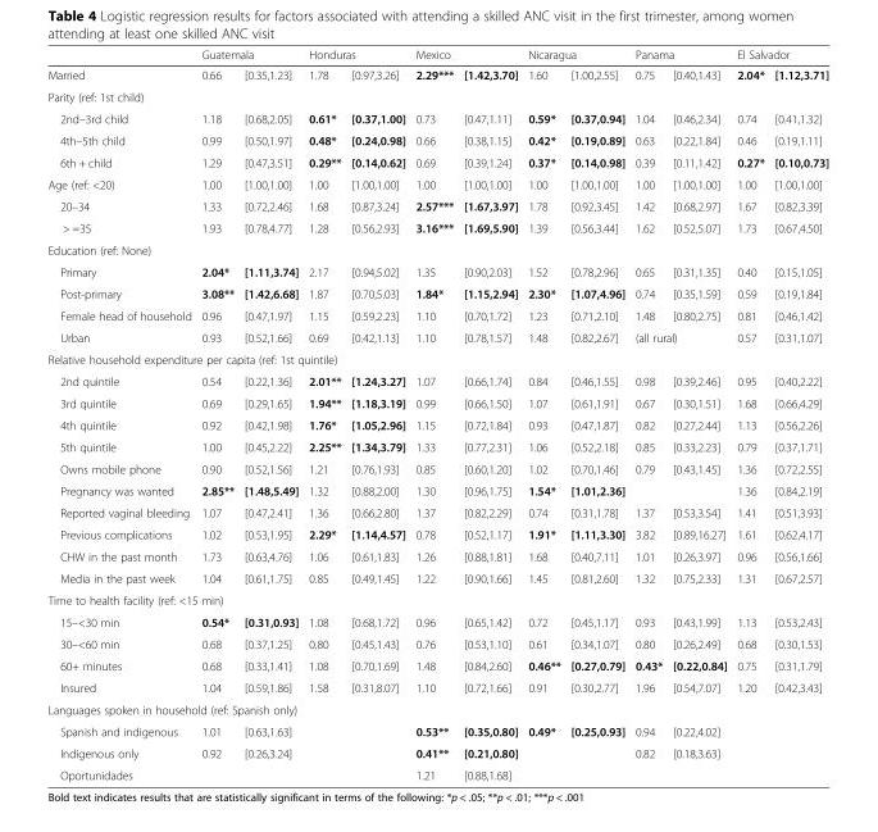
<table><thead><tr><td rowspan="2">Married</td><td colspan="2">Guatemala</td><td colspan="2">Honduras</td><td colspan="2">Mexico</td><td colspan="2">Nicaragua</td><td colspan="2">Panama</td><td colspan="2">El Salvador</td></tr><tr><td>0.66</td><td>[0.35,1.23]</td><td>1.78</td><td>[0.97,3.26]</td><td>2.29***</td><td>[1.42,3.70]</td><td>1.60</td><td>[1.00,2.55]</td><td>0.75</td><td>[0.40,1.43]</td><td>2.04*</td><td>[1.12,3.71]</td></tr></thead><tbody><tr><td colspan="13">Parity (ref: 1st child)</td></tr><tr><td>2nd–3rd child</td><td>1.18</td><td>[0.68,2.05]</td><td>0.61*</td><td>[0.37,1.00]</td><td>0.73</td><td>[0.47,1.11]</td><td>0.59*</td><td>[0.37,0.94]</td><td>1.04</td><td>[0.46,2.34]</td><td>0.74</td><td>[0.41,1.32]</td></tr><tr><td>4th–5th child</td><td>0.99</td><td>[0.50,1.97]</td><td>0.48*</td><td>[0.24,0.98]</td><td>0.66</td><td>[0.38,1.15]</td><td>0.42*</td><td>[0.19,0.89]</td><td>0.63</td><td>[0.22,1.84]</td><td>0.46</td><td>[0.19,1.11]</td></tr><tr><td>6th + child</td><td>1.29</td><td>[0.47,3.51]</td><td>0.29**</td><td>[0.14,0.62]</td><td>0.69</td><td>[0.39,1.24]</td><td>0.37*</td><td>[0.14,0.98]</td><td>0.39</td><td>[0.11,1.42]</td><td>0.27*</td><td>[0.10,0.73]</td></tr><tr><td>Age (ref: &lt;20)</td><td>1.00</td><td>[1.00,1.00]</td><td>1.00</td><td>[1.00,1.00]</td><td>1.00</td><td>[1.00,1.00]</td><td>1.00</td><td>[1.00,1.00]</td><td>1.00</td><td>[1.00,1.00]</td><td>1.00</td><td>[1.00,1.00]</td></tr><tr><td>20–34</td><td>1.33</td><td>[0.72,2.46]</td><td>1.68</td><td>[0.87,3.24]</td><td>2.57***</td><td>[1.67,3.97]</td><td>1.78</td><td>[0.92,3.45]</td><td>1.42</td><td>[0.68,2.97]</td><td>1.67</td><td>[0.82,3.39]</td></tr><tr><td>&gt; =35</td><td>1.93</td><td>[0.78,4.77]</td><td>1.28</td><td>[0.56,2.93]</td><td>3.16***</td><td>[1.69,5.90]</td><td>1.39</td><td>[0.56,3.44]</td><td>1.62</td><td>[0.52,5.07]</td><td>1.73</td><td>[0.67,4.50]</td></tr><tr><td colspan="13">Education (ref: None)</td></tr><tr><td>Primary</td><td>2.04*</td><td>[1.11,3.74]</td><td>2.17</td><td>[0.94,5.02]</td><td>1.35</td><td>[0.90,2.03]</td><td>1.52</td><td>[0.78,2.96]</td><td>0.65</td><td>[0.31,1.35]</td><td>0.40</td><td>[0.15,1.05]</td></tr><tr><td>Post-primary</td><td>3.08**</td><td>[1.42,6.68]</td><td>1.87</td><td>[0.70,5.03]</td><td>1.84*</td><td>[1.15,2.94]</td><td>2.30*</td><td>[1.07,4.96]</td><td>0.74</td><td>[0.35,1.59]</td><td>0.59</td><td>[0.19,1.84]</td></tr><tr><td>Female head of household</td><td>0.96</td><td>[0.47,1.97]</td><td>1.15</td><td>[0.59,2.23]</td><td>1.10</td><td>[0.70,1.72]</td><td>1.23</td><td>[0.71,2.10]</td><td>1.48</td><td>[0.80,2.75]</td><td>0.81</td><td>[0.46,1.42]</td></tr><tr><td>Urban</td><td>0.93</td><td>[0.52,1.66]</td><td>0.69</td><td>[0.42,1.13]</td><td>1.10</td><td>[0.78,1.57]</td><td>1.48</td><td>[0.82,2.67]</td><td colspan="2">(all rural)</td><td>0.57</td><td>[0.31,1.07]</td></tr><tr><td colspan="13">Relative household expenditure per capita (ref: 1st quintile)</td></tr><tr><td>2nd quintile</td><td>0.54</td><td>[0.22,1.36]</td><td>2.01**</td><td>[1.24,3.27]</td><td>1.07</td><td>[0.66,1.74]</td><td>0.84</td><td>[0.46,1.55]</td><td>0.98</td><td>[0.39,2.46]</td><td>0.95</td><td>[0.40,2.22]</td></tr><tr><td>3rd quintile</td><td>0.69</td><td>[0.29,1.65]</td><td>1.94**</td><td>[1.18,3.19]</td><td>0.99</td><td>[0.66,1.50]</td><td>1.07</td><td>[0.61,1.91]</td><td>0.67</td><td>[0.30,1.51]</td><td>1.68</td><td>[0.66,4.29]</td></tr><tr><td>4th quintile</td><td>0.92</td><td>[0.42,1.98]</td><td>1.76*</td><td>[1.05,2.96]</td><td>1.15</td><td>[0.72,1.84]</td><td>0.93</td><td>[0.47,1.87]</td><td>0.82</td><td>[0.27,2.44]</td><td>1.13</td><td>[0.56,2.26]</td></tr><tr><td>5th quintile</td><td>1.00</td><td>[0.45,2.22]</td><td>2.25**</td><td>[1.34,3.79]</td><td>1.33</td><td>[0.77,2.31]</td><td>1.06</td><td>[0.52,2.18]</td><td>0.85</td><td>[0.33,2.23]</td><td>0.79</td><td>[0.37,1.71]</td></tr><tr><td>Owns mobile phone</td><td>0.90</td><td>[0.52,1.56]</td><td>1.21</td><td>[0.76,1.93]</td><td>0.85</td><td>[0.60,1.20]</td><td>1.02</td><td>[0.70,1.46]</td><td>0.79</td><td>[0.43,1.45]</td><td>1.36</td><td>[0.72,2.55]</td></tr><tr><td>Pregnancy was wanted</td><td>2.85**</td><td>[1.48,5.49]</td><td>1.32</td><td>[0.88,2.00]</td><td>1.30</td><td>[0.96,1.75]</td><td>1.54*</td><td>[1.01,2.36]</td><td></td><td></td><td>1.36</td><td>[0.84,2.19]</td></tr><tr><td>Reported vaginal bleeding</td><td>1.07</td><td>[0.47,2.41]</td><td>1.36</td><td>[0.66,2.80]</td><td>1.37</td><td>[0.82,2.29]</td><td>0.74</td><td>[0.31,1.78]</td><td>1.37</td><td>[0.53,3.54]</td><td>1.41</td><td>[0.51,3.93]</td></tr><tr><td>Previous complications</td><td>1.02</td><td>[0.53,1.95]</td><td>2.29*</td><td>[1.14,4.57]</td><td>0.78</td><td>[0.52,1.17]</td><td>1.91*</td><td>[1.11,3.30]</td><td>3.82</td><td>[0.89,16.27]</td><td>1.61</td><td>[0.62,4.17]</td></tr><tr><td>CHW in the past month</td><td>1.73</td><td>[0.63,4.76]</td><td>1.06</td><td>[0.61,1.83]</td><td>1.26</td><td>[0.88,1.81]</td><td>1.68</td><td>[0.40,7.11]</td><td>1.01</td><td>[0.26,3.97]</td><td>0.96</td><td>[0.56,1.66]</td></tr><tr><td>Media in the past week</td><td>1.04</td><td>[0.61,1.75]</td><td>0.85</td><td>[0.49,1.45]</td><td>1.22</td><td>[0.90,1.66]</td><td>1.45</td><td>[0.81,2.60]</td><td>1.32</td><td>[0.75,2.33]</td><td>1.31</td><td>[0.67,2.57]</td></tr><tr><td colspan="13">Time to health facility (ref: &lt;15 min)</td></tr><tr><td>15–&lt;30 min</td><td>0.54*</td><td>[0.31,0.93]</td><td>1.08</td><td>[0.68,1.72]</td><td>0.96</td><td>[0.65,1.42]</td><td>0.72</td><td>[0.45,1.17]</td><td>0.93</td><td>[0.43,1.99]</td><td>1.13</td><td>[0.53,2.43]</td></tr><tr><td>30–&lt;60 min</td><td>0.68</td><td>[0.37,1.25]</td><td>0.80</td><td>[0.45,1.43]</td><td>0.76</td><td>[0.53,1.10]</td><td>0.61</td><td>[0.34,1.07]</td><td>0.80</td><td>[0.26,2.49]</td><td>0.68</td><td>[0.30,1.53]</td></tr><tr><td>60+ minutes</td><td>0.68</td><td>[0.33,1.41]</td><td>1.08</td><td>[0.70,1.69]</td><td>1.48</td><td>[0.84,2.60]</td><td>0.46**</td><td>[0.27,0.79]</td><td>0.43*</td><td>[0.22,0.84]</td><td>0.75</td><td>[0.31,1.79]</td></tr><tr><td>Insured</td><td>1.04</td><td>[0.59,1.86]</td><td>1.58</td><td>[0.31,8.07]</td><td>1.10</td><td>[0.72,1.66]</td><td>0.91</td><td>[0.30,2.77]</td><td>1.96</td><td>[0.54,7.07]</td><td>1.20</td><td>[0.42,3.43]</td></tr><tr><td colspan="13">Languages spoken in household (ref: Spanish only)</td></tr><tr><td>Spanish and indigenous</td><td>1.01</td><td>[0.63,1.63]</td><td></td><td></td><td>0.53**</td><td>[0.35,0.80]</td><td>0.49*</td><td>[0.25,0.93]</td><td>0.94</td><td>[0.22,4.02]</td><td></td><td></td></tr><tr><td>Indigenous only</td><td>0.92</td><td>[0.26,3.24]</td><td></td><td></td><td>0.41**</td><td>[0.21,0.80]</td><td></td><td></td><td>0.82</td><td>[0.18,3.63]</td><td></td><td></td></tr><tr><td>Oportunidades</td><td></td><td></td><td></td><td></td><td>1.21</td><td>[0.88,1.68]</td><td></td><td></td><td></td><td></td><td></td><td></td></tr></tbody></table>